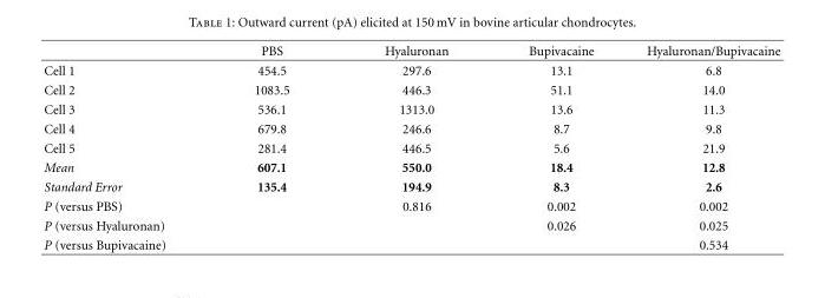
<table><thead><tr><td></td><td>PBS</td><td>Hyaluronan</td><td>Bupivacaine</td><td>Hyaluronan/Bupivacaine</td></tr></thead><tbody><tr><td>Cell 1</td><td>454.5</td><td>297.6</td><td>13.1</td><td>6.8</td></tr><tr><td>Cell 2</td><td>1083.5</td><td>446.3</td><td>51.1</td><td>14.0</td></tr><tr><td>Cell 3</td><td>536.1</td><td>1313.0</td><td>13.6</td><td>11.3</td></tr><tr><td>Cell 4</td><td>679.8</td><td>246.6</td><td>8.7</td><td>9.8</td></tr><tr><td>Cell 5</td><td>281.4</td><td>446.5</td><td>5.6</td><td>21.9</td></tr><tr><td>Mean</td><td>607.1</td><td>550.0</td><td>18.4</td><td>12.8</td></tr><tr><td>Standard Error</td><td>135.4</td><td>194.9</td><td>8.3</td><td>2.6</td></tr><tr><td>P (versus PBS)</td><td></td><td>0.816</td><td>0.002</td><td>0.002</td></tr><tr><td>P (versus Hyaluronan)</td><td></td><td></td><td>0.026</td><td>0.025</td></tr><tr><td>P (versus Bupivacaine)</td><td></td><td></td><td></td><td>0.534</td></tr></tbody></table>